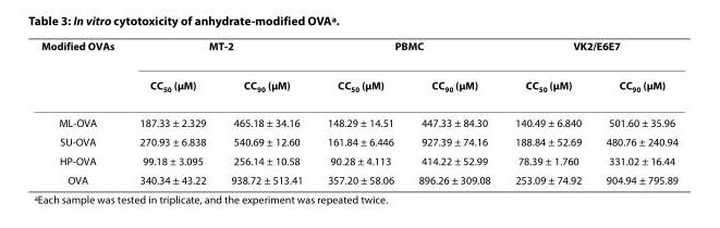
<table><thead><tr><td rowspan="2">Modified OVAs</td><td colspan="2">MT-2</td><td colspan="2">PBMC</td><td colspan="2">VK2/E6E7</td></tr><tr><td>CC<sub>50</sub> (μM)</td><td>CC<sub>90</sub> (μM)</td><td>CC<sub>50</sub> (μM)</td><td>CC<sub>90</sub> (μM)</td><td>CC<sub>50</sub> (μM)</td><td>CC<sub>90</sub> (μM)</td></tr></thead><tbody><tr><td>ML-OVA</td><td>187.33 ± 2.329</td><td>465.18 ± 34.16</td><td>148.29 ± 14.51</td><td>447.33 ± 84.30</td><td>140.49 ± 6.840</td><td>501.60 ± 35.96</td></tr><tr><td>SU-OVA</td><td>270.93 ± 6.838</td><td>540.69 ± 12.60</td><td>161.84 ± 6.446</td><td>927.39 ± 74.16</td><td>188.84 ± 52.69</td><td>480.76 ± 240.94</td></tr><tr><td>HP-OVA</td><td>99.18 ± 3.095</td><td>256.14 ± 10.58</td><td>90.28 ± 4.113</td><td>414.22 ± 52.99</td><td>78.39 ± 1.760</td><td>331.02 ± 16.44</td></tr><tr><td>OVA</td><td>340.34 ± 43.22</td><td>938.72 ± 513.41</td><td>357.20 ± 58.06</td><td>896.26 ± 309.08</td><td>253.09 ± 74.92</td><td>904.94 ± 795.89</td></tr></tbody></table>